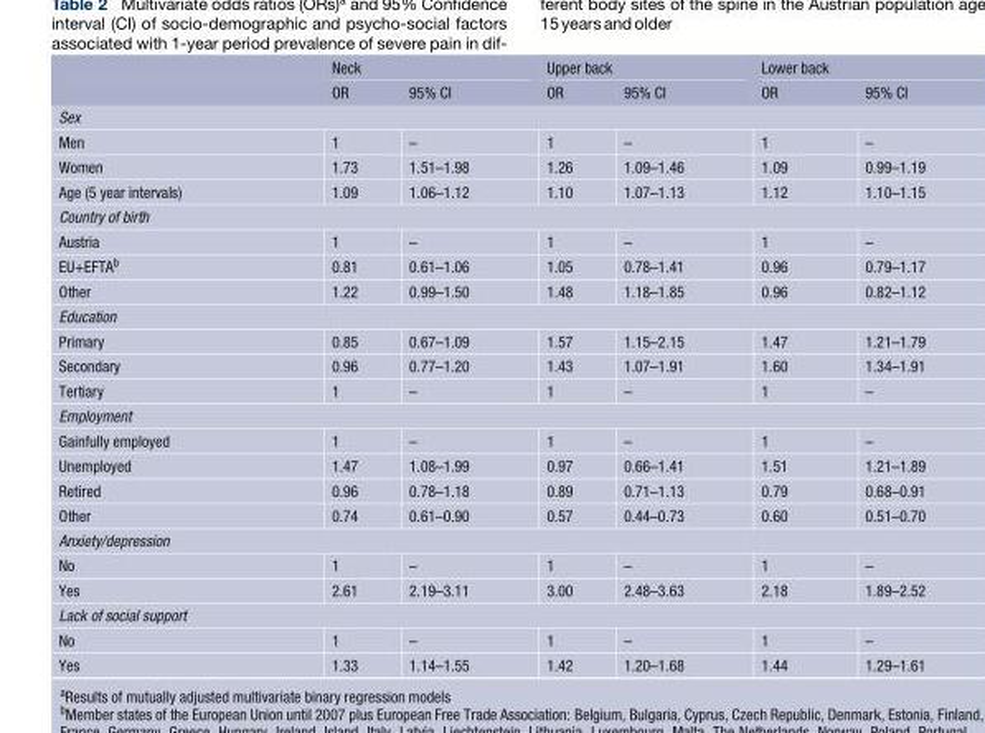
<table><thead><tr><td rowspan="2"></td><td colspan="2">Neck</td><td colspan="2">Upper back</td><td colspan="2">Lower back</td></tr><tr><td>OR</td><td>95% CI</td><td>OR</td><td>95% CI</td><td>OR</td><td>95% CI</td></tr></thead><tbody><tr><td colspan="7">Sex</td></tr><tr><td>Men</td><td>1</td><td>–</td><td>1</td><td>–</td><td>1</td><td>–</td></tr><tr><td>Women</td><td>1.73</td><td>1.51–1.98</td><td>1.26</td><td>1.09–1.46</td><td>1.09</td><td>0.99–1.19</td></tr><tr><td>Age (5 year intervals)</td><td>1.09</td><td>1.06–1.12</td><td>1.10</td><td>1.07–1.13</td><td>1.12</td><td>1.10–1.15</td></tr><tr><td colspan="7">Country of birth</td></tr><tr><td>Austria</td><td>1</td><td>–</td><td>1</td><td>–</td><td>1</td><td>–</td></tr><tr><td>EU+EFTA<sup>b</sup></td><td>0.81</td><td>0.61–1.06</td><td>1.05</td><td>0.78–1.41</td><td>0.96</td><td>0.79–1.17</td></tr><tr><td>Other</td><td>1.22</td><td>0.99–1.50</td><td>1.48</td><td>1.18–1.85</td><td>0.96</td><td>0.82–1.12</td></tr><tr><td colspan="7">Education</td></tr><tr><td>Primary</td><td>0.85</td><td>0.67–1.09</td><td>1.57</td><td>1.15–2.15</td><td>1.47</td><td>1.21–1.79</td></tr><tr><td>Secondary</td><td>0.96</td><td>0.77–1.20</td><td>1.43</td><td>1.07–1.91</td><td>1.60</td><td>1.34–1.91</td></tr><tr><td>Tertiary</td><td>1</td><td>–</td><td>1</td><td>–</td><td>1</td><td>–</td></tr><tr><td colspan="7">Employment</td></tr><tr><td>Gainfully employed</td><td>1</td><td>–</td><td>1</td><td>–</td><td>1</td><td>–</td></tr><tr><td>Unemployed</td><td>1.47</td><td>1.08–1.99</td><td>0.97</td><td>0.66–1.41</td><td>1.51</td><td>1.21–1.89</td></tr><tr><td>Retired</td><td>0.96</td><td>0.78–1.18</td><td>0.89</td><td>0.71–1.13</td><td>0.79</td><td>0.68–0.91</td></tr><tr><td>Other</td><td>0.74</td><td>0.61–0.90</td><td>0.57</td><td>0.44–0.73</td><td>0.60</td><td>0.51–0.70</td></tr><tr><td colspan="7">Anxiety/depression</td></tr><tr><td>No</td><td>1</td><td>–</td><td>1</td><td>–</td><td>1</td><td>–</td></tr><tr><td>Yes</td><td>2.61</td><td>2.19–3.11</td><td>3.00</td><td>2.48–3.63</td><td>2.18</td><td>1.89–2.52</td></tr><tr><td colspan="7">Lack of social support</td></tr><tr><td>No</td><td>1</td><td>–</td><td>1</td><td>–</td><td>1</td><td>–</td></tr><tr><td>Yes</td><td>1.33</td><td>1.14–1.55</td><td>1.42</td><td>1.20–1.68</td><td>1.44</td><td>1.29–1.61</td></tr></tbody></table>